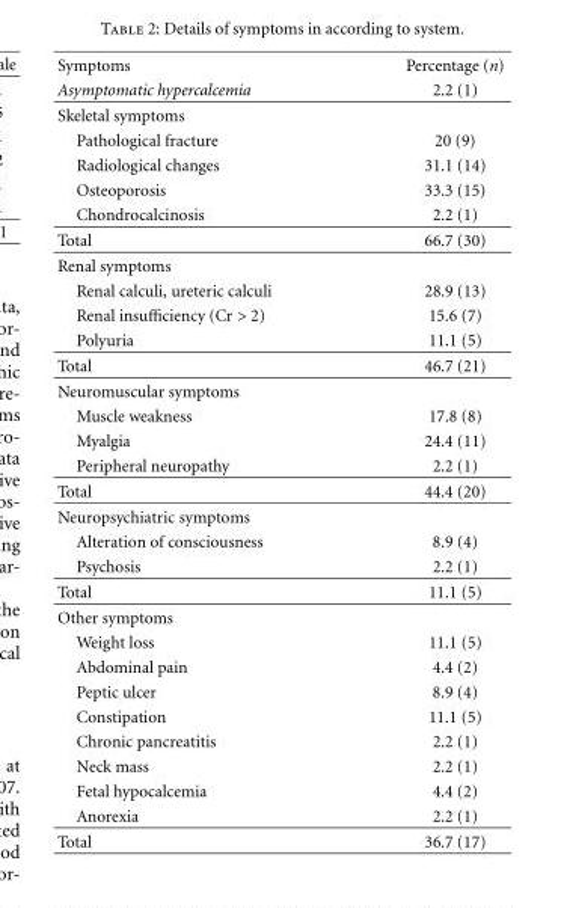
<table><thead><tr><td rowspan="2">Symptoms Asymptomatic hypercalcemia</td><td rowspan="2">Percentage (n) 2.2 (1)</td></tr><tr></tr></thead><tbody><tr><td colspan="2">Skeletal symptoms</td></tr><tr><td>Pathological fracture</td><td>20 (9)</td></tr><tr><td>Radiological changes</td><td>31.1 (14)</td></tr><tr><td>Osteoporosis</td><td>33.3 (15)</td></tr><tr><td>Chondrocalcinosis</td><td>2.2 (1)</td></tr><tr><td>Total</td><td>66.7 (30)</td></tr><tr><td colspan="2">Renal symptoms</td></tr><tr><td>Renal calculi, ureteric calculi</td><td>28.9 (13)</td></tr><tr><td>Renal insufficiency (Cr &gt; 2)</td><td>15.6 (7)</td></tr><tr><td>Polyuria</td><td>11.1 (5)</td></tr><tr><td>Total</td><td>46.7 (21)</td></tr><tr><td colspan="2">Neuromuscular symptoms</td></tr><tr><td>Muscle weakness</td><td>17.8 (8)</td></tr><tr><td>Myalgia</td><td>24.4 (11)</td></tr><tr><td>Peripheral neuropathy</td><td>2.2 (1)</td></tr><tr><td>Total</td><td>44.4 (20)</td></tr><tr><td colspan="2">Neuropsychiatric symptoms</td></tr><tr><td>Alteration of consciousness</td><td>8.9 (4)</td></tr><tr><td>Psychosis</td><td>2.2 (1)</td></tr><tr><td>Total</td><td>11.1 (5)</td></tr><tr><td colspan="2">Other symptoms</td></tr><tr><td>Weight loss</td><td>11.1 (5)</td></tr><tr><td>Abdominal pain</td><td>4.4 (2)</td></tr><tr><td>Peptic ulcer</td><td>8.9 (4)</td></tr><tr><td>Constipation</td><td>11.1 (5)</td></tr><tr><td>Chronic pancreatitis</td><td>2.2 (1)</td></tr><tr><td>Neck mass</td><td>2.2 (1)</td></tr><tr><td>Fetal hypocalcemia</td><td>4.4 (2)</td></tr><tr><td>Anorexia</td><td>2.2 (1)</td></tr><tr><td>Total</td><td>36.7 (17)</td></tr></tbody></table>